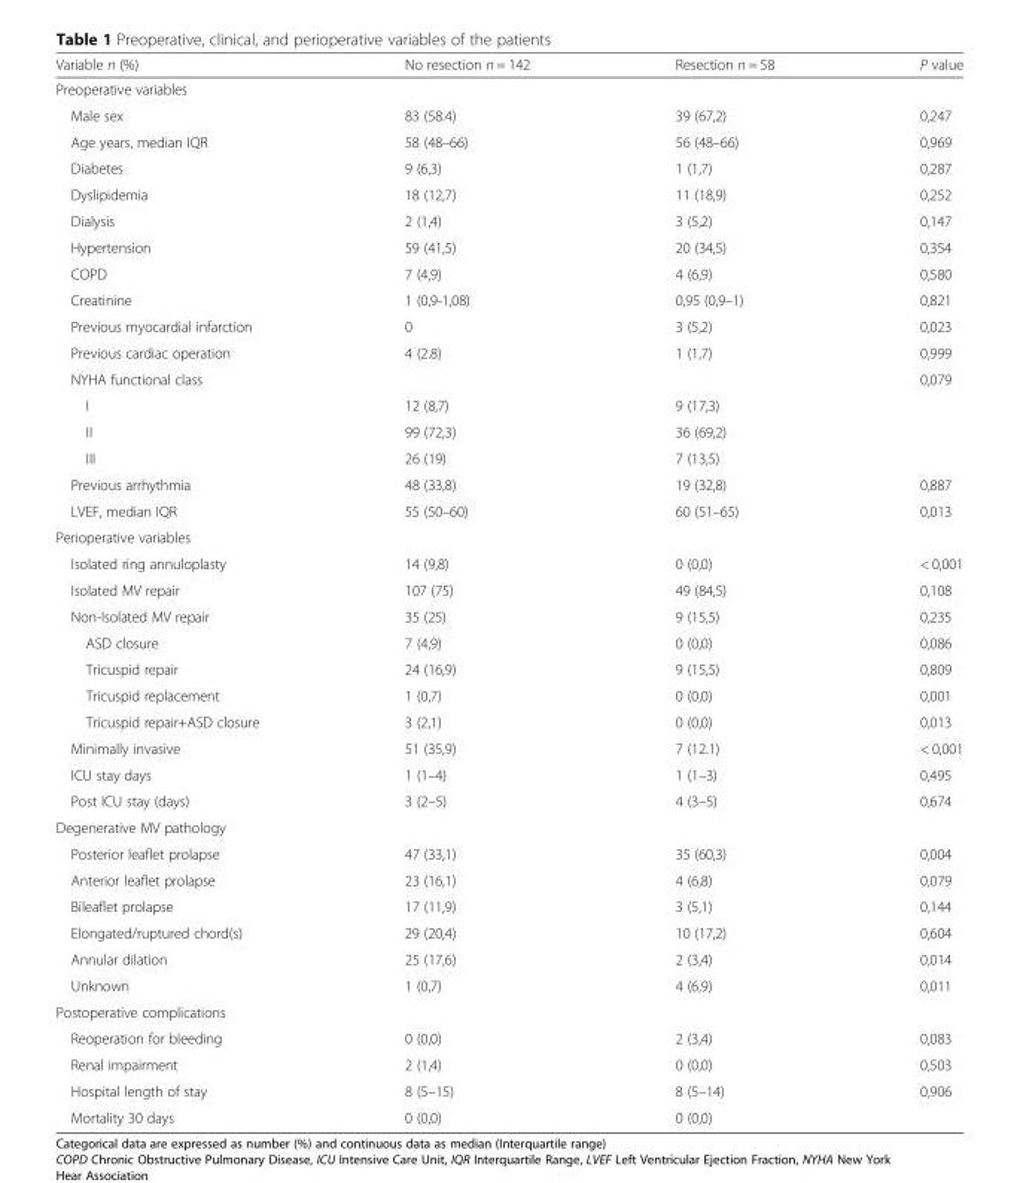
<table><thead><tr><td>Variable n (%)</td><td>No resection n = 142</td><td>Resection n = 58</td><td>P value</td></tr></thead><tbody><tr><td colspan="4">Preoperative variables</td></tr><tr><td>Male sex</td><td>83 (58.4)</td><td>39 (67,2)</td><td>0,247</td></tr><tr><td>Age years, median IQR</td><td>58 (48–66)</td><td>56 (48–66)</td><td>0,969</td></tr><tr><td>Diabetes</td><td>9 (6,3)</td><td>1 (1,7)</td><td>0,287</td></tr><tr><td>Dyslipidemia</td><td>18 (12,7)</td><td>11 (18,9)</td><td>0,252</td></tr><tr><td>Dialysis</td><td>2 (1,4)</td><td>3 (5,2)</td><td>0,147</td></tr><tr><td>Hypertension</td><td>59 (41,5)</td><td>20 (34,5)</td><td>0,354</td></tr><tr><td>COPD</td><td>7 (4,9)</td><td>4 (6,9)</td><td>0,580</td></tr><tr><td>Creatinine</td><td>1 (0,9-1,08)</td><td>0,95 (0,9–1)</td><td>0,821</td></tr><tr><td>Previous myocardial infarction</td><td>0</td><td>3 (5,2)</td><td>0,023</td></tr><tr><td>Previous cardiac operation</td><td>4 (2.8)</td><td>1 (1,7)</td><td>0,999</td></tr><tr><td>NYHA functional class</td><td></td><td></td><td>0,079</td></tr><tr><td>I</td><td>12 (8,7)</td><td>9 (17,3)</td><td></td></tr><tr><td>II</td><td>99 (72,3)</td><td>36 (69,2)</td><td></td></tr><tr><td>III</td><td>26 (19)</td><td>7 (13,5)</td><td></td></tr><tr><td>Previous arrhythmia</td><td>48 (33,8)</td><td>19 (32,8)</td><td>0,887</td></tr><tr><td>LVEF, median IQR</td><td>55 (50–60)</td><td>60 (51–65)</td><td>0,013</td></tr><tr><td colspan="4">Perioperative variables</td></tr><tr><td>Isolated ring annuloplasty</td><td>14 (9,8)</td><td>0 (0,0)</td><td>&lt; 0,001</td></tr><tr><td>Isolated MV repair</td><td>107 (75)</td><td>49 (84,5)</td><td>0,108</td></tr><tr><td>Non-Isolated MV repair</td><td>35 (25)</td><td>9 (15,5)</td><td>0,235</td></tr><tr><td>ASD closure</td><td>7 (4,9)</td><td>0 (0,0)</td><td>0,086</td></tr><tr><td>Tricuspid repair</td><td>24 (16,9)</td><td>9 (15,5)</td><td>0,809</td></tr><tr><td>Tricuspid replacement</td><td>1 (0,7)</td><td>0 (0,0)</td><td>0,001</td></tr><tr><td>Tricuspid repair+ASD closure</td><td>3 (2,1)</td><td>0 (0,0)</td><td>0,013</td></tr><tr><td>Minimally invasive</td><td>51 (35,9)</td><td>7 (12.1)</td><td>&lt; 0,001</td></tr><tr><td>ICU stay days</td><td>1 (1–4)</td><td>1 (1–3)</td><td>0,495</td></tr><tr><td>Post ICU stay (days)</td><td>3 (2–5)</td><td>4 (3–5)</td><td>0,674</td></tr><tr><td colspan="4">Degenerative MV pathology</td></tr><tr><td>Posterior leaflet prolapse</td><td>47 (33,1)</td><td>35 (60,3)</td><td>0,004</td></tr><tr><td>Anterior leaflet prolapse</td><td>23 (16,1)</td><td>4 (6,8)</td><td>0,079</td></tr><tr><td>Bileaflet prolapse</td><td>17 (11,9)</td><td>3 (5,1)</td><td>0,144</td></tr><tr><td>Elongated/ruptured chord(s)</td><td>29 (20,4)</td><td>10 (17,2)</td><td>0,604</td></tr><tr><td>Annular dilation</td><td>25 (17,6)</td><td>2 (3,4)</td><td>0,014</td></tr><tr><td>Unknown</td><td>1 (0,7)</td><td>4 (6,9)</td><td>0,011</td></tr><tr><td colspan="4">Postoperative complications</td></tr><tr><td>Reoperation for bleeding</td><td>0 (0,0)</td><td>2 (3,4)</td><td>0,083</td></tr><tr><td>Renal impairment</td><td>2 (1,4)</td><td>0 (0,0)</td><td>0,503</td></tr><tr><td>Hospital length of stay</td><td>8 (5–15)</td><td>8 (5–14)</td><td>0,906</td></tr><tr><td>Mortality 30 days</td><td>0 (0,0)</td><td>0 (0,0)</td><td></td></tr></tbody></table>